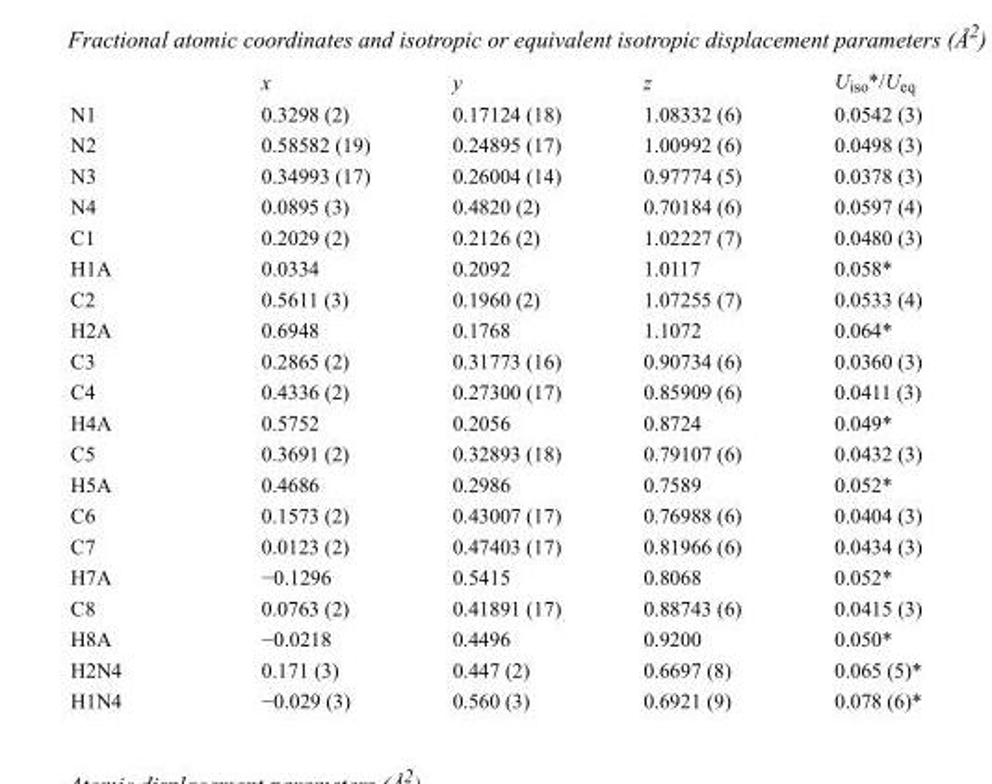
<table><thead><tr><td></td><td>x</td><td>y</td><td>z</td><td>U<sub>iso</sub>*/U<sub>eq</sub></td></tr></thead><tbody><tr><td>N1</td><td>0.3298 (2)</td><td>0.17124 (18)</td><td>1.08332 (6)</td><td>0.0542 (3)</td></tr><tr><td>N2</td><td>0.58582 (19)</td><td>0.24895 (17)</td><td>1.00992 (6)</td><td>0.0498 (3)</td></tr><tr><td>N3</td><td>0.34993 (17)</td><td>0.26004 (14)</td><td>0.97774 (5)</td><td>0.0378 (3)</td></tr><tr><td>N4</td><td>0.0895 (3)</td><td>0.4820 (2)</td><td>0.70184 (6)</td><td>0.0597 (4)</td></tr><tr><td>C1</td><td>0.2029 (2)</td><td>0.2126 (2)</td><td>1.02227 (7)</td><td>0.0480 (3)</td></tr><tr><td>H1A</td><td>0.0334</td><td>0.2092</td><td>1.0117</td><td>0.058*</td></tr><tr><td>C2</td><td>0.5611 (3)</td><td>0.1960 (2)</td><td>1.07255 (7)</td><td>0.0533 (4)</td></tr><tr><td>H2A</td><td>0.6948</td><td>0.1768</td><td>1.1072</td><td>0.064*</td></tr><tr><td>C3</td><td>0.2865 (2)</td><td>0.31773 (16)</td><td>0.90734 (6)</td><td>0.0360 (3)</td></tr><tr><td>C4</td><td>0.4336 (2)</td><td>0.27300 (17)</td><td>0.85909 (6)</td><td>0.0411 (3)</td></tr><tr><td>H4A</td><td>0.5752</td><td>0.2056</td><td>0.8724</td><td>0.049*</td></tr><tr><td>C5</td><td>0.3691 (2)</td><td>0.32893 (18)</td><td>0.79107 (6)</td><td>0.0432 (3)</td></tr><tr><td>H5A</td><td>0.4686</td><td>0.2986</td><td>0.7589</td><td>0.052*</td></tr><tr><td>C6</td><td>0.1573 (2)</td><td>0.43007 (17)</td><td>0.76988 (6)</td><td>0.0404 (3)</td></tr><tr><td>C7</td><td>0.0123 (2)</td><td>0.47403 (17)</td><td>0.81966 (6)</td><td>0.0434 (3)</td></tr><tr><td>H7A</td><td>−0.1296</td><td>0.5415</td><td>0.8068</td><td>0.052*</td></tr><tr><td>C8</td><td>0.0763 (2)</td><td>0.41891 (17)</td><td>0.88743 (6)</td><td>0.0415 (3)</td></tr><tr><td>H8A</td><td>−0.0218</td><td>0.4496</td><td>0.9200</td><td>0.050*</td></tr><tr><td>H2N4</td><td>0.171 (3)</td><td>0.447 (2)</td><td>0.6697 (8)</td><td>0.065 (5)*</td></tr><tr><td>H1N4</td><td>−0.029 (3)</td><td>0.560 (3)</td><td>0.6921 (9)</td><td>0.078 (6)*</td></tr></tbody></table>